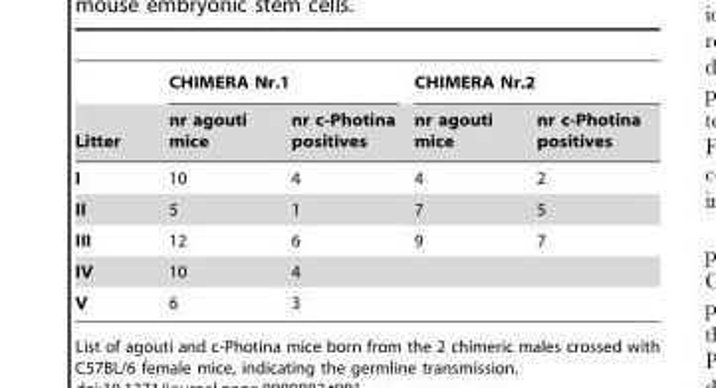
<table><thead><tr><td rowspan="2">Litter</td><td colspan="2">CHIMERA Nr.1</td><td colspan="2">CHIMERA Nr.2</td></tr><tr><td>nr agouti mice</td><td>nr c-Photina positives</td><td>nr agouti mice</td><td>nr c-Photina positives</td></tr></thead><tbody><tr><td>I</td><td>10</td><td>4</td><td>4</td><td>2</td></tr><tr><td>II</td><td>5</td><td>1</td><td>7</td><td>5</td></tr><tr><td>III</td><td>12</td><td>6</td><td>9</td><td>7</td></tr><tr><td>IV</td><td>10</td><td>4</td><td></td><td></td></tr><tr><td>V</td><td>6</td><td>3</td><td></td><td></td></tr></tbody></table>